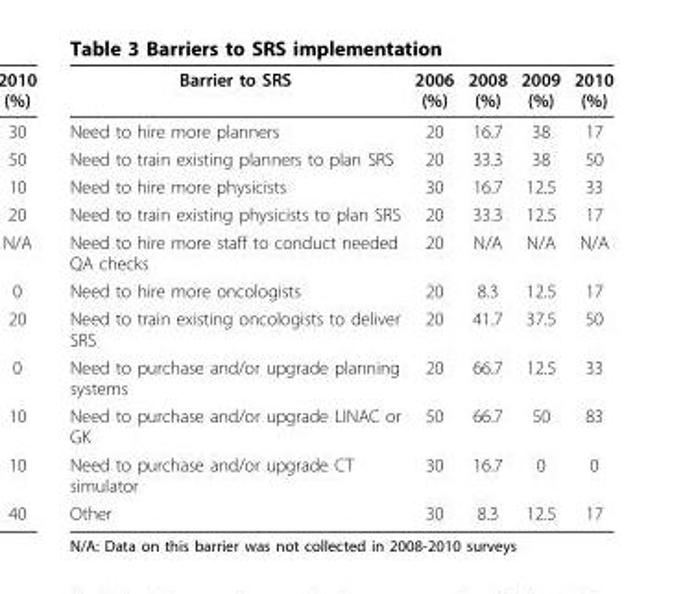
<table><thead><tr><td>Barrier to SRS</td><td>2006 (%)</td><td>2008 (%)</td><td>2009 (%)</td><td>2010 (%)</td></tr></thead><tbody><tr><td>Need to hire more planners</td><td>20</td><td>16.7</td><td>38</td><td>17</td></tr><tr><td>Need to train existing planners to plan SRS</td><td>20</td><td>33.3</td><td>38</td><td>50</td></tr><tr><td>Need to hire more physicists</td><td>30</td><td>16.7</td><td>12.5</td><td>33</td></tr><tr><td>Need to train existing physicists to plan SRS</td><td>20</td><td>33.3</td><td>12.5</td><td>17</td></tr><tr><td>Need to hire more staff to conduct needed QA checks</td><td>20</td><td>N/A</td><td>N/A</td><td>N/A</td></tr><tr><td>Need to hire more oncologists</td><td>20</td><td>8.3</td><td>12.5</td><td>17</td></tr><tr><td>Need to train existing oncologists to deliver SRS</td><td>20</td><td>41.7</td><td>37.5</td><td>50</td></tr><tr><td>Need to purchase and/or upgrade planning systems</td><td>20</td><td>66.7</td><td>12.5</td><td>33</td></tr><tr><td>Need to purchase and/or upgrade LINAC or GK</td><td>50</td><td>66.7</td><td>50</td><td>83</td></tr><tr><td>Need to purchase and/or upgrade CT simulator</td><td>30</td><td>16.7</td><td>0</td><td>0</td></tr><tr><td>Other</td><td>30</td><td>8.3</td><td>12.5</td><td>17</td></tr></tbody></table>